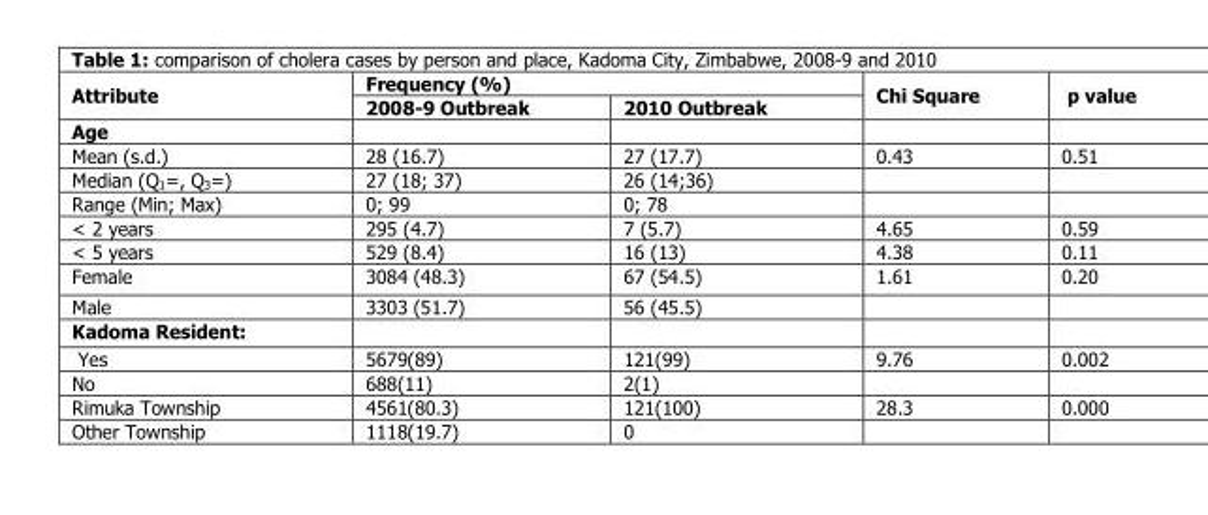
<table><thead><tr><td rowspan="2">Attribute</td><td colspan="2">Frequency (%)</td><td rowspan="2">Chi Square</td><td rowspan="2">p value</td></tr><tr><td>2008-9 Outbreak</td><td>2010 Outbreak</td></tr></thead><tbody><tr><td colspan="5">Age</td></tr><tr><td>Mean (s.d.)</td><td>28 (16.7)</td><td>27 (17.7)</td><td>0.43</td><td>0.51</td></tr><tr><td>Median (Q<sub>1</sub>=, Q<sub>3</sub>=)</td><td>27 (18; 37)</td><td>26 (14;36)</td><td></td><td></td></tr><tr><td>Range (Min; Max)</td><td>0; 99</td><td>0; 78</td><td></td><td></td></tr><tr><td>&lt; 2 years</td><td>295 (4.7)</td><td>7 (5.7)</td><td>4.65</td><td>0.59</td></tr><tr><td>&lt; 5 years</td><td>529 (8.4)</td><td>16 (13)</td><td>4.38</td><td>0.11</td></tr><tr><td>Female</td><td>3084 (48.3)</td><td>67 (54.5)</td><td>1.61</td><td>0.20</td></tr><tr><td>Male</td><td>3303 (51.7)</td><td>56 (45.5)</td><td></td><td></td></tr><tr><td colspan="5">Kadoma Resident:</td></tr><tr><td>Yes</td><td>5679(89)</td><td>121(99)</td><td>9.76</td><td>0.002</td></tr><tr><td>No</td><td>688(11)</td><td>2(1)</td><td></td><td></td></tr><tr><td>Rimuka Township</td><td>4561(80.3)</td><td>121(100)</td><td>28.3</td><td>0.000</td></tr><tr><td>Other Township</td><td>1118(19.7)</td><td>0</td><td></td><td></td></tr></tbody></table>